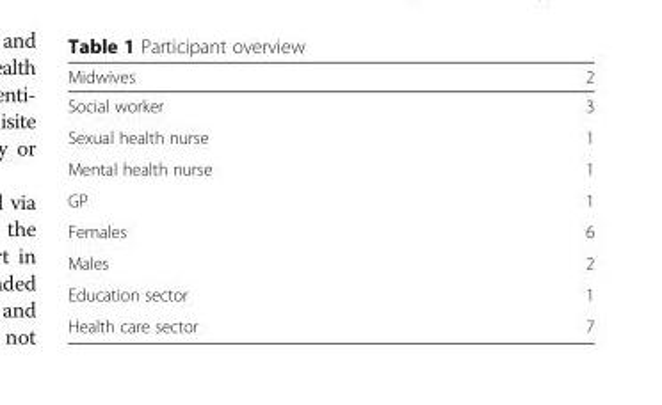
<table><thead><tr><td>Midwives</td><td>2</td></tr></thead><tbody><tr><td>Social worker</td><td>3</td></tr><tr><td>Sexual health nurse</td><td>1</td></tr><tr><td>Mental health nurse</td><td>1</td></tr><tr><td>GP</td><td>1</td></tr><tr><td>Females</td><td>6</td></tr><tr><td>Males</td><td>2</td></tr><tr><td>Education sector</td><td>1</td></tr><tr><td>Health care sector</td><td>7</td></tr></tbody></table>